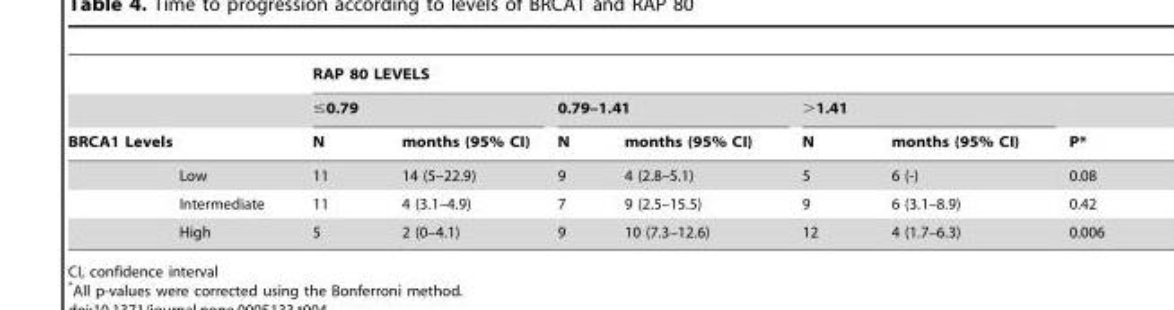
<table><thead><tr><td rowspan="3">BRCA1 Levels</td><td rowspan="3"></td><td colspan="7">RAP 80 LEVELS</td></tr><tr><td colspan="2">≤0.79</td><td colspan="2">0.79–1.41</td><td colspan="2">&gt;1.41</td><td rowspan="2">P*</td></tr><tr><td>N</td><td>months (95% CI)</td><td>N</td><td>months (95% CI)</td><td>N</td><td>months (95% CI)</td></tr></thead><tbody><tr><td></td><td>Low</td><td>11</td><td>14 (5–22.9)</td><td>9</td><td>4 (2.8–5.1)</td><td>5</td><td>6 (-)</td><td>0.08</td></tr><tr><td></td><td>Intermediate</td><td>11</td><td>4 (3.1–4.9)</td><td>7</td><td>9 (2.5–15.5)</td><td>9</td><td>6 (3.1–8.9)</td><td>0.42</td></tr><tr><td></td><td>High</td><td>5</td><td>2 (0–4.1)</td><td>9</td><td>10 (7.3–12.6)</td><td>12</td><td>4 (1.7–6.3)</td><td>0.006</td></tr></tbody></table>